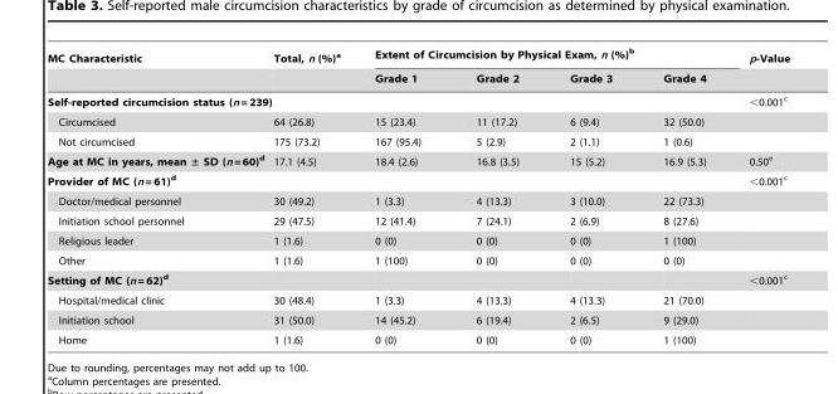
<table><thead><tr><td rowspan="2">MC Characteristic</td><td rowspan="2">Total, n (%)<sup>a</sup></td><td colspan="4">Extent of Circumcision by Physical Exam, n (%)<sup>b</sup></td><td rowspan="2">p-Value</td></tr><tr><td>Grade 1</td><td>Grade 2</td><td>Grade 3</td><td>Grade 4</td></tr></thead><tbody><tr><td>Self-reported circumcision status (n = 239)</td><td></td><td></td><td></td><td></td><td></td><td>&lt;0.001<sup>c</sup></td></tr><tr><td>Circumcised</td><td>64 (26.8)</td><td>15 (23.4)</td><td>11 (17.2)</td><td>6 (9.4)</td><td>32 (50.0)</td><td></td></tr><tr><td>Not circumcised</td><td>175 (73.2)</td><td>167 (95.4)</td><td>5 (2.9)</td><td>2 (1.1)</td><td>1 (0.6)</td><td></td></tr><tr><td>Age at MC in years, mean ± SD (n = 60)d</td><td>17.1 (4.5)</td><td>18.4 (2.6)</td><td>16.8 (3.5)</td><td>15 (5.2)</td><td>16.9 (5.3)</td><td>0.50<sup>e</sup></td></tr><tr><td>Provider of MC (n = 61)d</td><td></td><td></td><td></td><td></td><td></td><td>&lt;0.001<sup>c</sup></td></tr><tr><td>Doctor/medical personnel</td><td>30 (49.2)</td><td>1 (3.3)</td><td>4 (13.3)</td><td>3 (10.0)</td><td>22 (73.3)</td><td></td></tr><tr><td>Initiation school personnel</td><td>29 (47.5)</td><td>12 (41.4)</td><td>7 (24.1)</td><td>2 (6.9)</td><td>8 (27.6)</td><td></td></tr><tr><td>Religious leader</td><td>1 (1.6)</td><td>0 (0)</td><td>0 (0)</td><td>0 (0)</td><td>1 (100)</td><td></td></tr><tr><td>Other</td><td>1 (1.6)</td><td>1 (100)</td><td>0 (0)</td><td>0 (0)</td><td>0 (0)</td><td></td></tr><tr><td>Setting of MC (n = 62)d</td><td></td><td></td><td></td><td></td><td></td><td>&lt;0.001<sup>c</sup></td></tr><tr><td>Hospital/medical clinic</td><td>30 (48.4)</td><td>1 (3.3)</td><td>4 (13.3)</td><td>4 (13.3)</td><td>21 (70.0)</td><td></td></tr><tr><td>Initiation school</td><td>31 (50.0)</td><td>14 (45.2)</td><td>6 (19.4)</td><td>2 (6.5)</td><td>9 (29.0)</td><td></td></tr><tr><td>Home</td><td>1 (1.6)</td><td>0 (0)</td><td>0 (0)</td><td>0 (0)</td><td>1 (100)</td><td></td></tr></tbody></table>